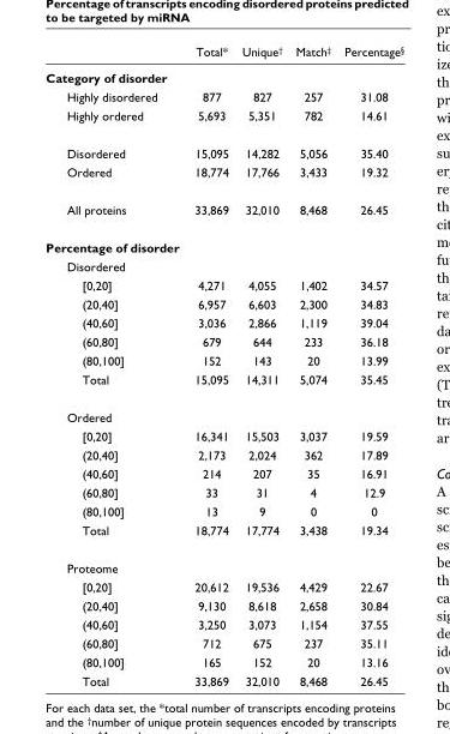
<table><thead><tr><td></td><td>Total*</td><td>Unique<sup>†</sup></td><td>Match<sup>‡</sup></td><td>Percentage<sup>§</sup></td></tr></thead><tbody><tr><td colspan="5">Category of disorder</td></tr><tr><td>Highly disordered</td><td>877</td><td>827</td><td>257</td><td>31.08</td></tr><tr><td>Highly ordered</td><td>5,693</td><td>5,351</td><td>782</td><td>14.61</td></tr><tr><td>Disordered</td><td>15,095</td><td>14,282</td><td>5,056</td><td>35.40</td></tr><tr><td>Ordered</td><td>18,774</td><td>17,766</td><td>3,433</td><td>19.32</td></tr><tr><td>All proteins</td><td>33,869</td><td>32,010</td><td>8,468</td><td>26.45</td></tr><tr><td colspan="5">Percentage of disorder</td></tr><tr><td colspan="5">Disordered</td></tr><tr><td>[0,20]</td><td>4,271</td><td>4,055</td><td>1,402</td><td>34.57</td></tr><tr><td>(20,40]</td><td>6,957</td><td>6,603</td><td>2,300</td><td>34.83</td></tr><tr><td>(40,60]</td><td>3,036</td><td>2,866</td><td>1,119</td><td>39.04</td></tr><tr><td>(60,80]</td><td>679</td><td>644</td><td>233</td><td>36.18</td></tr><tr><td>(80,100]</td><td>152</td><td>143</td><td>20</td><td>13.99</td></tr><tr><td>Total</td><td>15,095</td><td>14,311</td><td>5,074</td><td>35.45</td></tr><tr><td colspan="5">Ordered</td></tr><tr><td>[0,20]</td><td>16,341</td><td>15,503</td><td>3,037</td><td>19.59</td></tr><tr><td>(20,40]</td><td>2,173</td><td>2,024</td><td>362</td><td>17.89</td></tr><tr><td>(40,60]</td><td>214</td><td>207</td><td>35</td><td>16.91</td></tr><tr><td>(60,80]</td><td>33</td><td>31</td><td>4</td><td>12.9</td></tr><tr><td>(80,100]</td><td>13</td><td>9</td><td>0</td><td>0</td></tr><tr><td>Total</td><td>18,774</td><td>17,774</td><td>3,438</td><td>19.34</td></tr><tr><td colspan="5">Proteome</td></tr><tr><td>[0,20]</td><td>20,612</td><td>19,536</td><td>4,429</td><td>22.67</td></tr><tr><td>(20,40]</td><td>9,130</td><td>8,618</td><td>2,658</td><td>30.84</td></tr><tr><td>(40,60]</td><td>3,250</td><td>3,073</td><td>1,154</td><td>37.55</td></tr><tr><td>(60,80]</td><td>712</td><td>675</td><td>237</td><td>35.11</td></tr><tr><td>(80,100]</td><td>165</td><td>152</td><td>20</td><td>13.16</td></tr><tr><td>Total</td><td>33,869</td><td>32,010</td><td>8,468</td><td>26.45</td></tr></tbody></table>